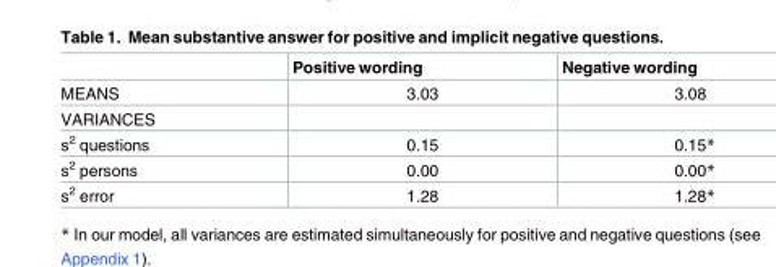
<table><thead><tr><td></td><td>Positive wording</td><td>Negative wording</td></tr></thead><tbody><tr><td>MEANS</td><td>3.03</td><td>3.08</td></tr><tr><td colspan="3">VARIANCES</td></tr><tr><td>s<sup>2</sup> questions</td><td>0.15</td><td>0.15*</td></tr><tr><td>s<sup>2</sup> persons</td><td>0.00</td><td>0.00*</td></tr><tr><td>s<sup>2</sup> error</td><td>1.28</td><td>1.28*</td></tr></tbody></table>